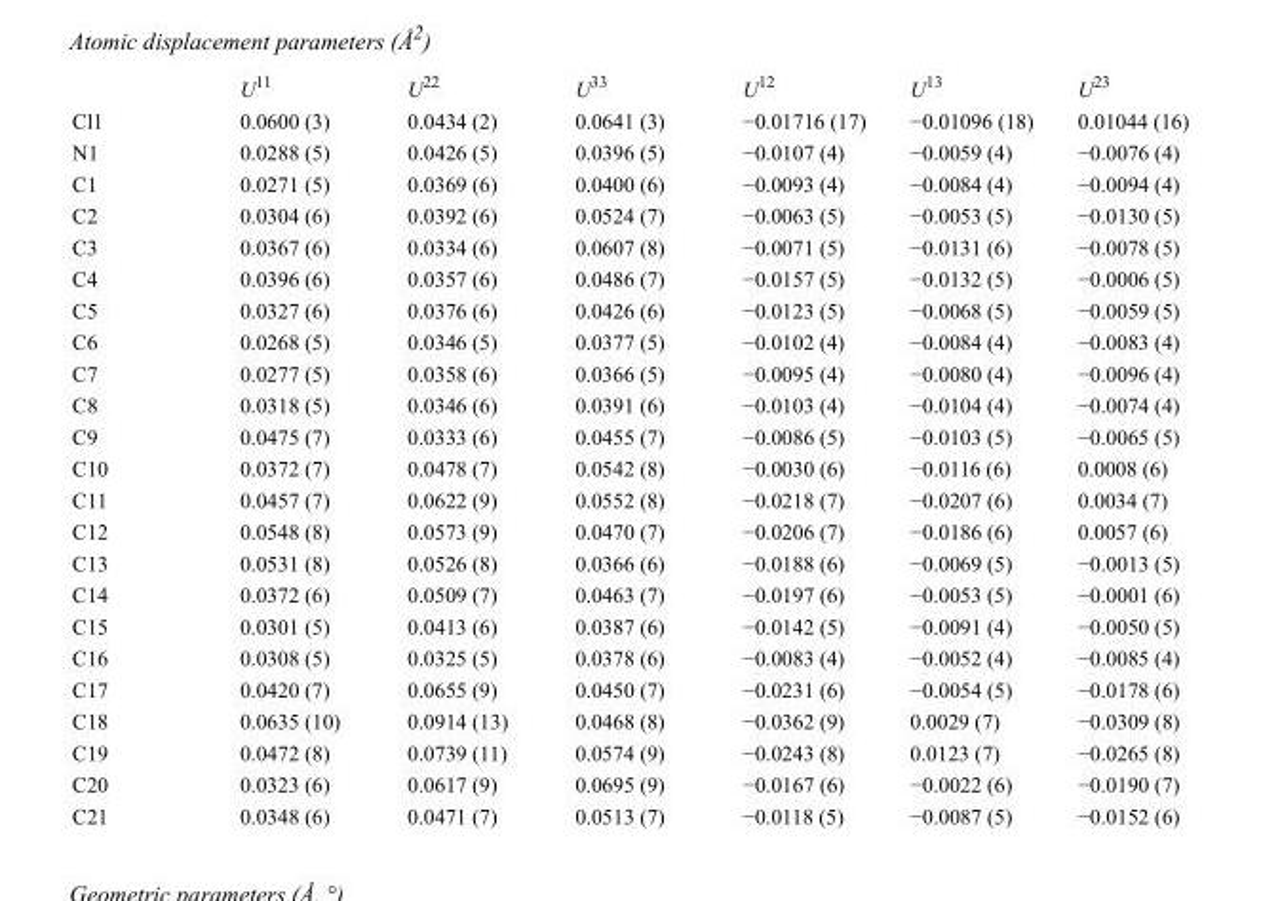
<table><thead><tr><td></td><td>U<sup>11</sup></td><td>U<sup>22</sup></td><td>U<sup>33</sup></td><td>U<sup>12</sup></td><td>U<sup>13</sup></td><td>U<sup>23</sup></td></tr></thead><tbody><tr><td>Cl1</td><td>0.0600 (3)</td><td>0.0434 (2)</td><td>0.0641 (3)</td><td>−0.01716 (17)</td><td>−0.01096 (18)</td><td>0.01044 (16)</td></tr><tr><td>N1</td><td>0.0288 (5)</td><td>0.0426 (5)</td><td>0.0396 (5)</td><td>−0.0107 (4)</td><td>−0.0059 (4)</td><td>−0.0076 (4)</td></tr><tr><td>C1</td><td>0.0271 (5)</td><td>0.0369 (6)</td><td>0.0400 (6)</td><td>−0.0093 (4)</td><td>−0.0084 (4)</td><td>−0.0094 (4)</td></tr><tr><td>C2</td><td>0.0304 (6)</td><td>0.0392 (6)</td><td>0.0524 (7)</td><td>−0.0063 (5)</td><td>−0.0053 (5)</td><td>−0.0130 (5)</td></tr><tr><td>C3</td><td>0.0367 (6)</td><td>0.0334 (6)</td><td>0.0607 (8)</td><td>−0.0071 (5)</td><td>−0.0131 (6)</td><td>−0.0078 (5)</td></tr><tr><td>C4</td><td>0.0396 (6)</td><td>0.0357 (6)</td><td>0.0486 (7)</td><td>−0.0157 (5)</td><td>−0.0132 (5)</td><td>−0.0006 (5)</td></tr><tr><td>C5</td><td>0.0327 (6)</td><td>0.0376 (6)</td><td>0.0426 (6)</td><td>−0.0123 (5)</td><td>−0.0068 (5)</td><td>−0.0059 (5)</td></tr><tr><td>C6</td><td>0.0268 (5)</td><td>0.0346 (5)</td><td>0.0377 (5)</td><td>−0.0102 (4)</td><td>−0.0084 (4)</td><td>−0.0083 (4)</td></tr><tr><td>C7</td><td>0.0277 (5)</td><td>0.0358 (6)</td><td>0.0366 (5)</td><td>−0.0095 (4)</td><td>−0.0080 (4)</td><td>−0.0096 (4)</td></tr><tr><td>C8</td><td>0.0318 (5)</td><td>0.0346 (6)</td><td>0.0391 (6)</td><td>−0.0103 (4)</td><td>−0.0104 (4)</td><td>−0.0074 (4)</td></tr><tr><td>C9</td><td>0.0475 (7)</td><td>0.0333 (6)</td><td>0.0455 (7)</td><td>−0.0086 (5)</td><td>−0.0103 (5)</td><td>−0.0065 (5)</td></tr><tr><td>C10</td><td>0.0372 (7)</td><td>0.0478 (7)</td><td>0.0542 (8)</td><td>−0.0030 (6)</td><td>−0.0116 (6)</td><td>0.0008 (6)</td></tr><tr><td>C11</td><td>0.0457 (7)</td><td>0.0622 (9)</td><td>0.0552 (8)</td><td>−0.0218 (7)</td><td>−0.0207 (6)</td><td>0.0034 (7)</td></tr><tr><td>C12</td><td>0.0548 (8)</td><td>0.0573 (9)</td><td>0.0470 (7)</td><td>−0.0206 (7)</td><td>−0.0186 (6)</td><td>0.0057 (6)</td></tr><tr><td>C13</td><td>0.0531 (8)</td><td>0.0526 (8)</td><td>0.0366 (6)</td><td>−0.0188 (6)</td><td>−0.0069 (5)</td><td>−0.0013 (5)</td></tr><tr><td>C14</td><td>0.0372 (6)</td><td>0.0509 (7)</td><td>0.0463 (7)</td><td>−0.0197 (6)</td><td>−0.0053 (5)</td><td>−0.0001 (6)</td></tr><tr><td>C15</td><td>0.0301 (5)</td><td>0.0413 (6)</td><td>0.0387 (6)</td><td>−0.0142 (5)</td><td>−0.0091 (4)</td><td>−0.0050 (5)</td></tr><tr><td>C16</td><td>0.0308 (5)</td><td>0.0325 (5)</td><td>0.0378 (6)</td><td>−0.0083 (4)</td><td>−0.0052 (4)</td><td>−0.0085 (4)</td></tr><tr><td>C17</td><td>0.0420 (7)</td><td>0.0655 (9)</td><td>0.0450 (7)</td><td>−0.0231 (6)</td><td>−0.0054 (5)</td><td>−0.0178 (6)</td></tr><tr><td>C18</td><td>0.0635 (10)</td><td>0.0914 (13)</td><td>0.0468 (8)</td><td>−0.0362 (9)</td><td>0.0029 (7)</td><td>−0.0309 (8)</td></tr><tr><td>C19</td><td>0.0472 (8)</td><td>0.0739 (11)</td><td>0.0574 (9)</td><td>−0.0243 (8)</td><td>0.0123 (7)</td><td>−0.0265 (8)</td></tr><tr><td>C20</td><td>0.0323 (6)</td><td>0.0617 (9)</td><td>0.0695 (9)</td><td>−0.0167 (6)</td><td>−0.0022 (6)</td><td>−0.0190 (7)</td></tr><tr><td>C21</td><td>0.0348 (6)</td><td>0.0471 (7)</td><td>0.0513 (7)</td><td>−0.0118 (5)</td><td>−0.0087 (5)</td><td>−0.0152 (6)</td></tr></tbody></table>